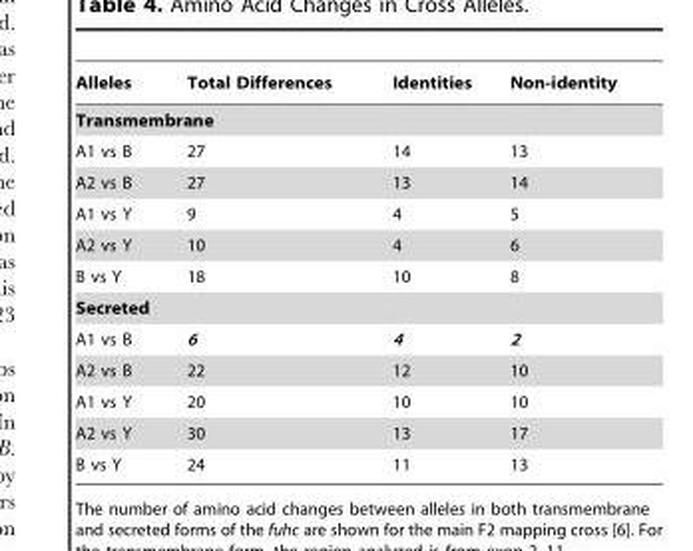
<table><thead><tr><td>Alleles</td><td>Total Differences</td><td>Identities</td><td>Non-identity</td></tr></thead><tbody><tr><td colspan="4">Transmembrane</td></tr><tr><td>A1 vs B</td><td>27</td><td>14</td><td>13</td></tr><tr><td>A2 vs B</td><td>27</td><td>13</td><td>14</td></tr><tr><td>A1 vs Y</td><td>9</td><td>4</td><td>5</td></tr><tr><td>A2 vs Y</td><td>10</td><td>4</td><td>6</td></tr><tr><td>B vs Y</td><td>18</td><td>10</td><td>8</td></tr><tr><td colspan="4">Secreted</td></tr><tr><td>A1 vs B</td><td>6</td><td>4</td><td>2</td></tr><tr><td>A2 vs B</td><td>22</td><td>12</td><td>10</td></tr><tr><td>A1 vs Y</td><td>20</td><td>10</td><td>10</td></tr><tr><td>A2 vs Y</td><td>30</td><td>13</td><td>17</td></tr><tr><td>B vs Y</td><td>24</td><td>11</td><td>13</td></tr></tbody></table>